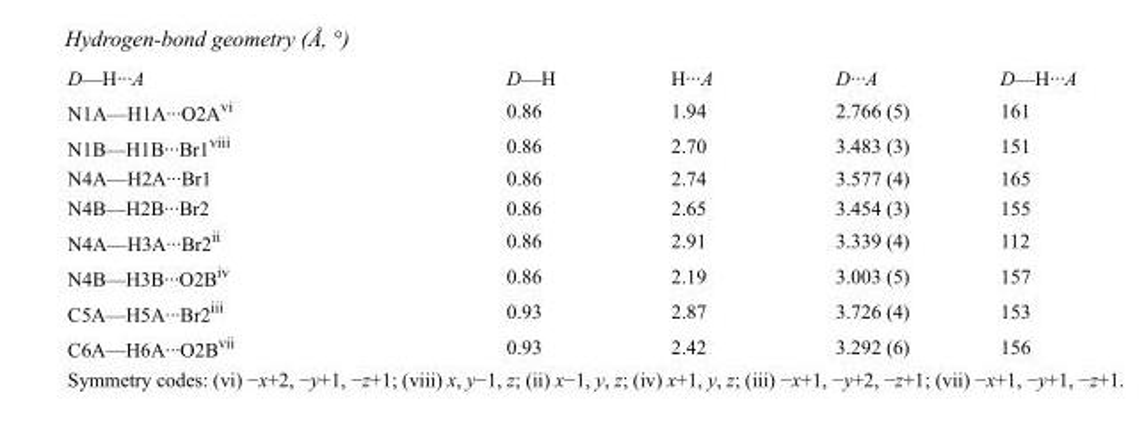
<table><tbody><tr><td>D—H···A</td><td>D—H</td><td>H···A</td><td>D···A</td><td>D—H···A</td></tr><tr><td>N1A—H1A···O2A<sup>vi</sup></td><td>0.86</td><td>1.94</td><td>2.766 (5)</td><td>161</td></tr><tr><td>N1B—H1B···Br1<sup>viii</sup></td><td>0.86</td><td>2.70</td><td>3.483 (3)</td><td>151</td></tr><tr><td>N4A—H2A···Br1</td><td>0.86</td><td>2.74</td><td>3.577 (4)</td><td>165</td></tr><tr><td>N4B—H2B···Br2</td><td>0.86</td><td>2.65</td><td>3.454 (3)</td><td>155</td></tr><tr><td>N4A—H3A···Br2<sup>ii</sup></td><td>0.86</td><td>2.91</td><td>3.339 (4)</td><td>112</td></tr><tr><td>N4B—H3B···O2B<sup>iv</sup></td><td>0.86</td><td>2.19</td><td>3.003 (5)</td><td>157</td></tr><tr><td>C5A—H5A···Br2<sup>iii</sup></td><td>0.93</td><td>2.87</td><td>3.726 (4)</td><td>153</td></tr><tr><td>C6A—H6A···O2B<sup>vii</sup></td><td>0.93</td><td>2.42</td><td>3.292 (6)</td><td>156</td></tr></tbody></table>